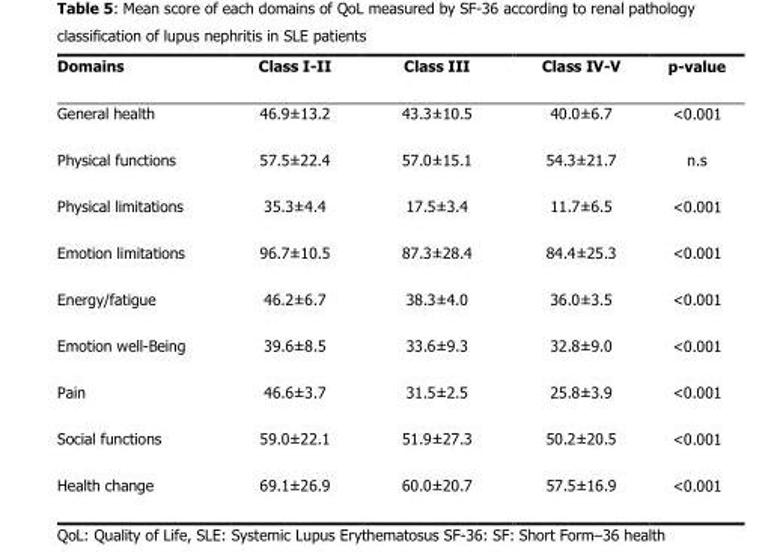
<table><thead><tr><td rowspan="10">Domains General health Physical functions Physical limitations Emotion limitations Energy/fatigue Emotion well-Being Pain Social functions Health change</td><td rowspan="10">Class I-II 46.9±13.2 57.5±22.4 35.3±4.4 96.7±10.5 46.2±6.7 39.6±8.5 46.6±3.7 59.0±22.1 69.1±26.9</td><td rowspan="10">Class III 43.3±10.5 57.0±15.1 17.5±3.4 87.3±28.4 38.3±4.0 33.6±9.3 31.5±2.5 51.9±27.3 60.0±20.7</td><td rowspan="10">Class IV-V 40.0±6.7 54.3±21.7 11.7±6.5 84.4±25.3 36.0±3.5 32.8±9.0 25.8±3.9 50.2±20.5 57.5±16.9</td><td rowspan="10">p-value &lt;0.001 n.s &lt;0.001 &lt;0.001 &lt;0.001 &lt;0.001 &lt;0.001 &lt;0.001 &lt;0.001</td></tr><tr></tr><tr></tr><tr></tr><tr></tr><tr></tr><tr></tr><tr></tr><tr></tr><tr></tr></thead><tbody></tbody></table>